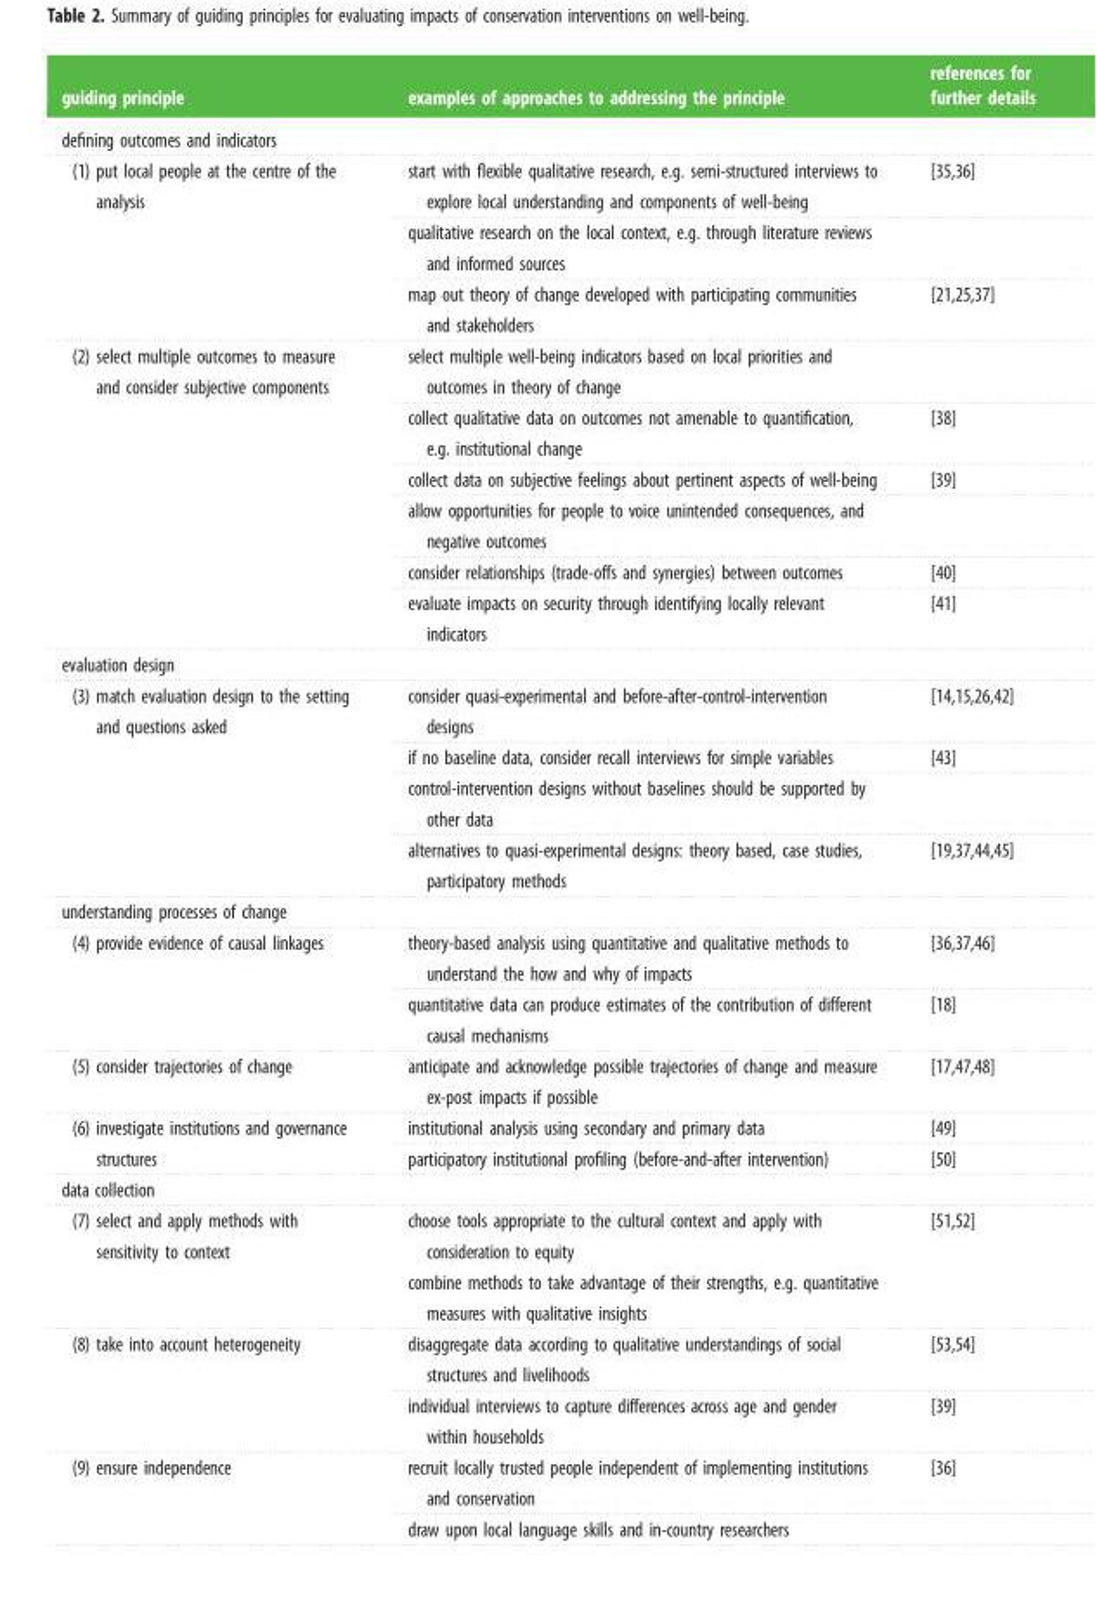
<table><thead><tr><td>guiding principle</td><td>examples of approaches to addressing the principle</td><td>references for further details</td></tr></thead><tbody><tr><td colspan="3">defining outcomes and indicators</td></tr><tr><td rowspan="3">(1) put local people at the centre of the analysis</td><td>start with flexible qualitative research, e.g. semi-structured interviews to explore local understanding and components of well-being</td><td>[35,36]</td></tr><tr><td>qualitative research on the local context, e.g. through literature reviews and informed sources</td><td></td></tr><tr><td>map out theory of change developed with participating communities and stakeholders</td><td>[21,25,37]</td></tr><tr><td rowspan="6">(2) select multiple outcomes to measure and consider subjective components</td><td>select multiple well-being indicators based on local priorities and outcomes in theory of change</td><td></td></tr><tr><td>collect qualitative data on outcomes not amenable to quantification, e.g. institutional change</td><td>[38]</td></tr><tr><td>collect data on subjective feelings about pertinent aspects of well-being</td><td>[39]</td></tr><tr><td>allow opportunities for people to voice unintended consequences, and negative outcomes</td><td></td></tr><tr><td>consider relationships (trade-offs and synergies) between outcomes</td><td>[40]</td></tr><tr><td>evaluate impacts on security through identifying locally relevant indicators</td><td>[41]</td></tr><tr><td colspan="3">evaluation design</td></tr><tr><td rowspan="4">(3) match evaluation design to the setting and questions asked</td><td>consider quasi-experimental and before-after-control-intervention designs</td><td>[14,15,26,42]</td></tr><tr><td>if no baseline data, consider recall interviews for simple variables</td><td>[43]</td></tr><tr><td>control-intervention designs without baselines should be supported by other data</td><td></td></tr><tr><td>alternatives to quasi-experimental designs: theory based, case studies, participatory methods</td><td>[19,37,44,45]</td></tr><tr><td colspan="3">understanding processes of change</td></tr><tr><td rowspan="2">(4) provide evidence of causal linkages</td><td>theory-based analysis using quantitative and qualitative methods to understand the how and why of impacts</td><td>[36,37,46]</td></tr><tr><td>quantitative data can produce estimates of the contribution of different causal mechanisms</td><td>[18]</td></tr><tr><td>(5) consider trajectories of change</td><td>anticipate and acknowledge possible trajectories of change and measure ex-post impacts if possible</td><td>[17,47,48]</td></tr><tr><td rowspan="2">(6) investigate institutions and governance structures</td><td>institutional analysis using secondary and primary data</td><td>[49]</td></tr><tr><td>participatory institutional profiling (before-and-after intervention)</td><td>[50]</td></tr><tr><td colspan="3">data collection</td></tr><tr><td>(7) select and apply methods with sensitivity to context</td><td>choose tools appropriate to the cultural context and apply with consideration to equity combine methods to take advantage of their strengths, e.g. quantitative measures with qualitative insights</td><td>[51,52]</td></tr><tr><td rowspan="2">(8) take into account heterogeneity</td><td>disaggregate data according to qualitative understandings of social structures and livelihoods</td><td>[53,54]</td></tr><tr><td>individual interviews to capture differences across age and gender within households</td><td>[39]</td></tr><tr><td rowspan="2">(9) ensure independence</td><td>recruit locally trusted people independent of implementing institutions and conservation</td><td>[36]</td></tr><tr><td>draw upon local language skills and in-country researchers</td><td></td></tr></tbody></table>